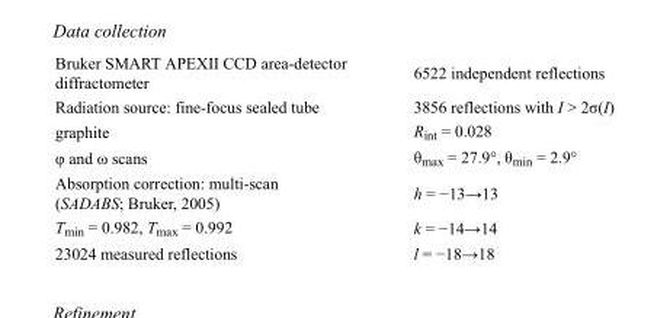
<table><tbody><tr><td>Bruker SMART APEXII CCD area-detector diffractometer</td><td>6522 independent reflections</td></tr><tr><td>Radiation source: fine-focus sealed tube</td><td>3856 reflections with I &gt; 2σ(I)</td></tr><tr><td>graphite</td><td>R<sub>int</sub> = 0.028</td></tr><tr><td>φ and ω scans</td><td>θ<sub>max</sub> = 27.9°, θ<sub>min</sub> = 2.9°</td></tr><tr><td>Absorption correction: multi-scan (SADABS; Bruker, 2005)</td><td>h = −13→13</td></tr><tr><td>T<sub>min</sub> = 0.982, T<sub>max</sub> = 0.992</td><td>k = −14→14</td></tr><tr><td>23024 measured reflections</td><td>l = −18→18</td></tr></tbody></table>